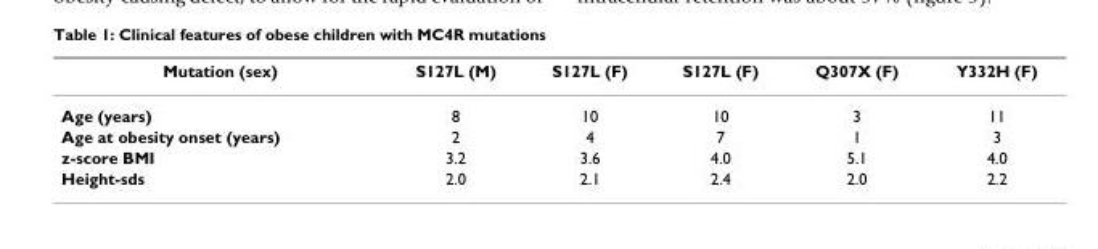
<table><thead><tr><td>Mutation (sex)</td><td>S127L (M)</td><td>S127L (F)</td><td>S127L (F)</td><td>Q307X (F)</td><td>Y332H (F)</td></tr></thead><tbody><tr><td>Age (years)</td><td>8</td><td>10</td><td>10</td><td>3</td><td>11</td></tr><tr><td>Age at obesity onset (years)</td><td>2</td><td>4</td><td>7</td><td>1</td><td>3</td></tr><tr><td>z-score BMI</td><td>3.2</td><td>3.6</td><td>4.0</td><td>5.1</td><td>4.0</td></tr><tr><td>Height-sds</td><td>2.0</td><td>2.1</td><td>2.4</td><td>2.0</td><td>2.2</td></tr></tbody></table>